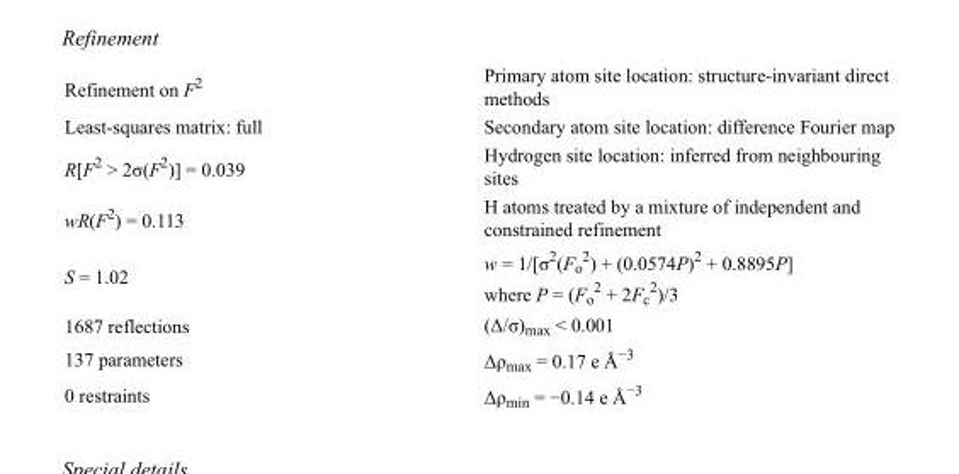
<table><tbody><tr><td>Refinement on F<sup>2</sup></td><td>Primary atom site location: structure-invariant direct methods</td></tr><tr><td>Least-squares matrix: full</td><td>Secondary atom site location: difference Fourier map</td></tr><tr><td>R[F<sup>2</sup> &gt; 2σ(F<sup>2</sup>)] = 0.039</td><td>Hydrogen site location: inferred from neighbouring sites</td></tr><tr><td>wR(F<sup>2</sup>) = 0.113</td><td>H atoms treated by a mixture of independent and constrained refinement</td></tr><tr><td>S = 1.02</td><td>w = 1/[σ<sup>2</sup>(F<sub>o</sub> <sup>2</sup>) + (0.0574P)<sup>2</sup> + 0.8895P] where P = (F<sub>o</sub> <sup>2</sup> + 2F<sub>c</sub> <sup>2</sup>)/3</td></tr><tr><td>1687 reflections</td><td>(Δ/σ)<sub>max</sub> &lt; 0.001</td></tr><tr><td>137 parameters</td><td>Δρ<sub>max</sub> = 0.17 e Å<sup>−3</sup></td></tr><tr><td>0 restraints</td><td>Δρ<sub>min</sub> = −0.14 e Å<sup>−3</sup></td></tr></tbody></table>